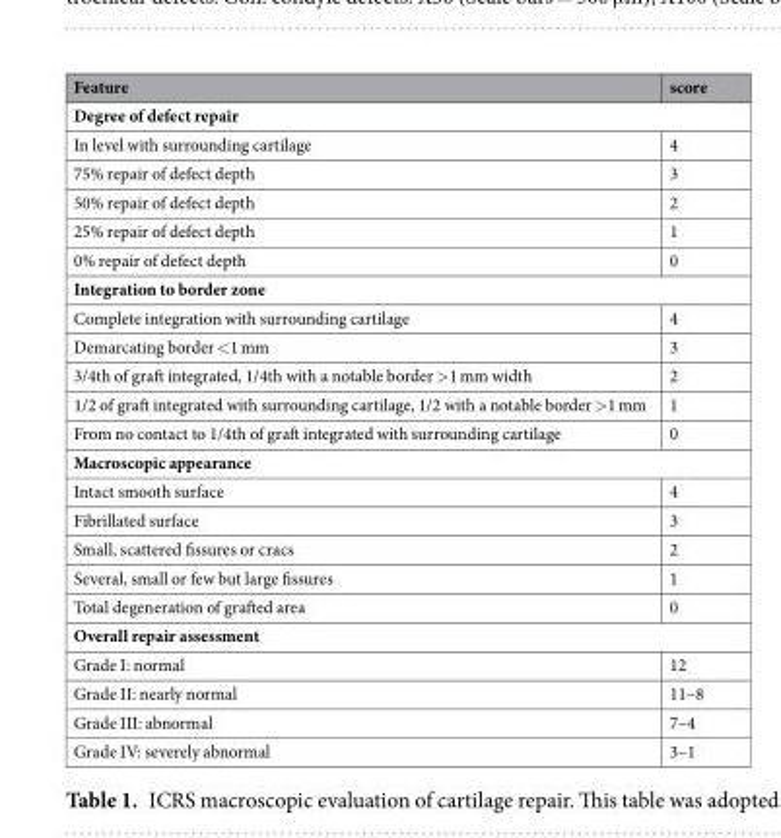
<table><thead><tr><td>Feature</td><td>score</td></tr></thead><tbody><tr><td colspan="2">Degree of defect repair</td></tr><tr><td>In level with surrounding cartilage</td><td>4</td></tr><tr><td>75% repair of defect depth</td><td>3</td></tr><tr><td>50% repair of defect depth</td><td>2</td></tr><tr><td>25% repair of defect depth</td><td>1</td></tr><tr><td>0% repair of defect depth</td><td>0</td></tr><tr><td colspan="2">Integration to border zone</td></tr><tr><td>Complete integration with surrounding cartilage</td><td>4</td></tr><tr><td>Demarcating border &lt;1 mm</td><td>3</td></tr><tr><td>3/4th of graft integrated, 1/4th with a notable border &gt;1 mm width</td><td>2</td></tr><tr><td>1/2 of graft integrated with surrounding cartilage, 1/2 with a notable border &gt;1 mm</td><td>1</td></tr><tr><td>From no contact to 1/4th of graft integrated with surrounding cartilage</td><td>0</td></tr><tr><td colspan="2">Macroscopic appearance</td></tr><tr><td>Intact smooth surface</td><td>4</td></tr><tr><td>Fibrillated surface</td><td>3</td></tr><tr><td>Small, scattered fissures or cracs</td><td>2</td></tr><tr><td>Several, small or few but large fissures</td><td>1</td></tr><tr><td>Total degeneration of grafted area</td><td>0</td></tr><tr><td colspan="2">Overall repair assessment</td></tr><tr><td>Grade I: normal</td><td>12</td></tr><tr><td>Grade II: nearly normal</td><td>11–8</td></tr><tr><td>Grade III: abnormal</td><td>7–4</td></tr><tr><td>Grade IV: severely abnormal</td><td>3–1</td></tr></tbody></table>